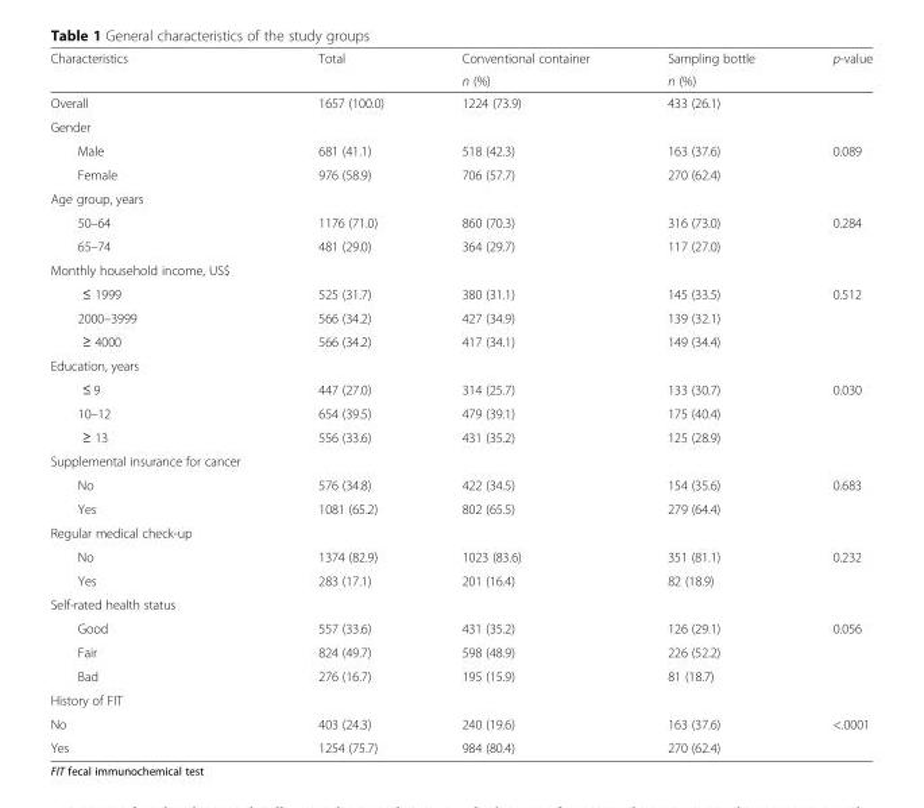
<table><thead><tr><td rowspan="2">Characteristics</td><td rowspan="2">Total</td><td rowspan="2">Conventional container n (%)</td><td rowspan="2">Sampling bottle n (%)</td><td rowspan="2">p-value</td></tr><tr></tr></thead><tbody><tr><td>Overall</td><td>1657 (100.0)</td><td>1224 (73.9)</td><td>433 (26.1)</td><td></td></tr><tr><td colspan="5">Gender</td></tr><tr><td>Male</td><td>681 (41.1)</td><td>518 (42.3)</td><td>163 (37.6)</td><td rowspan="2">0.089</td></tr><tr><td>Female</td><td>976 (58.9)</td><td>706 (57.7)</td><td>270 (62.4)</td></tr><tr><td colspan="5">Age group, years</td></tr><tr><td>50–64</td><td>1176 (71.0)</td><td>860 (70.3)</td><td>316 (73.0)</td><td rowspan="2">0.284</td></tr><tr><td>65–74</td><td>481 (29.0)</td><td>364 (29.7)</td><td>117 (27.0)</td></tr><tr><td colspan="5">Monthly household income, US$</td></tr><tr><td>≤ 1999</td><td>525 (31.7)</td><td>380 (31.1)</td><td>145 (33.5)</td><td rowspan="3">0.512</td></tr><tr><td>2000–3999</td><td>566 (34.2)</td><td>427 (34.9)</td><td>139 (32.1)</td></tr><tr><td>≥ 4000</td><td>566 (34.2)</td><td>417 (34.1)</td><td>149 (34.4)</td></tr><tr><td colspan="5">Education, years</td></tr><tr><td>≤ 9</td><td>447 (27.0)</td><td>314 (25.7)</td><td>133 (30.7)</td><td rowspan="3">0.030</td></tr><tr><td>10–12</td><td>654 (39.5)</td><td>479 (39.1)</td><td>175 (40.4)</td></tr><tr><td>≥ 13</td><td>556 (33.6)</td><td>431 (35.2)</td><td>125 (28.9)</td></tr><tr><td colspan="5">Supplemental insurance for cancer</td></tr><tr><td>No</td><td>576 (34.8)</td><td>422 (34.5)</td><td>154 (35.6)</td><td rowspan="2">0.683</td></tr><tr><td>Yes</td><td>1081 (65.2)</td><td>802 (65.5)</td><td>279 (64.4)</td></tr><tr><td colspan="5">Regular medical check-up</td></tr><tr><td>No</td><td>1374 (82.9)</td><td>1023 (83.6)</td><td>351 (81.1)</td><td rowspan="2">0.232</td></tr><tr><td>Yes</td><td>283 (17.1)</td><td>201 (16.4)</td><td>82 (18.9)</td></tr><tr><td colspan="5">Self-rated health status</td></tr><tr><td>Good</td><td>557 (33.6)</td><td>431 (35.2)</td><td>126 (29.1)</td><td rowspan="3">0.056</td></tr><tr><td>Fair</td><td>824 (49.7)</td><td>598 (48.9)</td><td>226 (52.2)</td></tr><tr><td>Bad</td><td>276 (16.7)</td><td>195 (15.9)</td><td>81 (18.7)</td></tr><tr><td colspan="5">History of FIT</td></tr><tr><td>No</td><td>403 (24.3)</td><td>240 (19.6)</td><td>163 (37.6)</td><td>&lt;.0001</td></tr><tr><td>Yes</td><td>1254 (75.7)</td><td>984 (80.4)</td><td>270 (62.4)</td><td></td></tr></tbody></table>